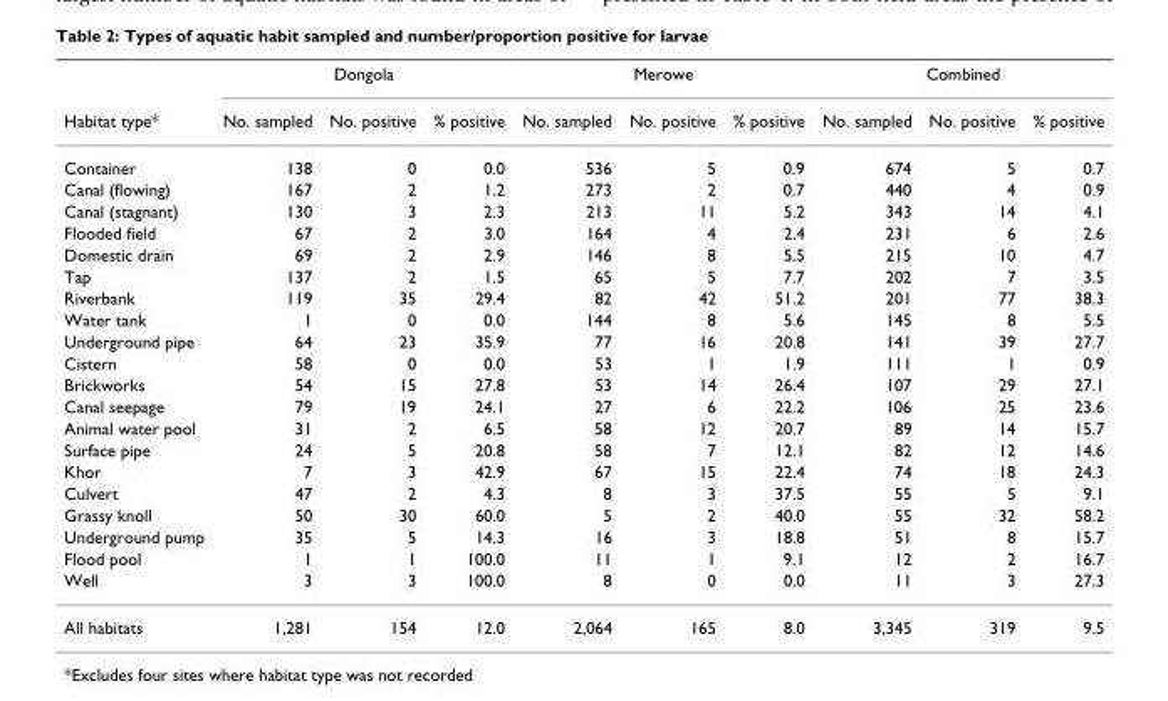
<table><thead><tr><td rowspan="2">Habitat type*</td><td colspan="3">Dongola</td><td colspan="3">Merowe</td><td colspan="3">Combined</td></tr><tr><td>No. sampled</td><td>No. positive</td><td>% positive</td><td>No. sampled</td><td>No. positive</td><td>% positive</td><td>No. sampled</td><td>No. positive</td><td>% positive</td></tr></thead><tbody><tr><td>Container</td><td>138</td><td>0</td><td>0.0</td><td>536</td><td>5</td><td>0.9</td><td>674</td><td>5</td><td>0.7</td></tr><tr><td>Canal (flowing)</td><td>167</td><td>2</td><td>1.2</td><td>273</td><td>2</td><td>0.7</td><td>440</td><td>4</td><td>0.9</td></tr><tr><td>Canal (stagnant)</td><td>130</td><td>3</td><td>2.3</td><td>213</td><td>11</td><td>5.2</td><td>343</td><td>14</td><td>4.1</td></tr><tr><td>Flooded field</td><td>67</td><td>2</td><td>3.0</td><td>164</td><td>4</td><td>2.4</td><td>231</td><td>6</td><td>2.6</td></tr><tr><td>Domestic drain</td><td>69</td><td>2</td><td>2.9</td><td>146</td><td>8</td><td>5.5</td><td>215</td><td>10</td><td>4.7</td></tr><tr><td>Tap</td><td>137</td><td>2</td><td>1.5</td><td>65</td><td>5</td><td>7.7</td><td>202</td><td>7</td><td>3.5</td></tr><tr><td>Riverbank</td><td>119</td><td>35</td><td>29.4</td><td>82</td><td>42</td><td>51.2</td><td>201</td><td>77</td><td>38.3</td></tr><tr><td>Water tank</td><td>1</td><td>0</td><td>0.0</td><td>144</td><td>8</td><td>5.6</td><td>145</td><td>8</td><td>5.5</td></tr><tr><td>Underground pipe</td><td>64</td><td>23</td><td>35.9</td><td>77</td><td>16</td><td>20.8</td><td>141</td><td>39</td><td>27.7</td></tr><tr><td>Cistern</td><td>58</td><td>0</td><td>0.0</td><td>53</td><td>1</td><td>1.9</td><td>111</td><td>1</td><td>0.9</td></tr><tr><td>Brickworks</td><td>54</td><td>15</td><td>27.8</td><td>53</td><td>14</td><td>26.4</td><td>107</td><td>29</td><td>27.1</td></tr><tr><td>Canal seepage</td><td>79</td><td>19</td><td>24.1</td><td>27</td><td>6</td><td>22.2</td><td>106</td><td>25</td><td>23.6</td></tr><tr><td>Animal water pool</td><td>31</td><td>2</td><td>6.5</td><td>58</td><td>12</td><td>20.7</td><td>89</td><td>14</td><td>15.7</td></tr><tr><td>Surface pipe</td><td>24</td><td>5</td><td>20.8</td><td>58</td><td>7</td><td>12.1</td><td>82</td><td>12</td><td>14.6</td></tr><tr><td>Khor</td><td>7</td><td>3</td><td>42.9</td><td>67</td><td>15</td><td>22.4</td><td>74</td><td>18</td><td>24.3</td></tr><tr><td>Culvert</td><td>47</td><td>2</td><td>4.3</td><td>8</td><td>3</td><td>37.5</td><td>55</td><td>5</td><td>9.1</td></tr><tr><td>Grassy knoll</td><td>50</td><td>30</td><td>60.0</td><td>5</td><td>2</td><td>40.0</td><td>55</td><td>32</td><td>58.2</td></tr><tr><td>Underground pump</td><td>35</td><td>5</td><td>14.3</td><td>16</td><td>3</td><td>18.8</td><td>51</td><td>8</td><td>15.7</td></tr><tr><td>Flood pool</td><td>1</td><td>1</td><td>100.0</td><td>11</td><td>1</td><td>9.1</td><td>12</td><td>2</td><td>16.7</td></tr><tr><td>Well</td><td>3</td><td>3</td><td>100.0</td><td>8</td><td>0</td><td>0.0</td><td>11</td><td>3</td><td>27.3</td></tr><tr><td>All habitats</td><td>1,281</td><td>154</td><td>12.0</td><td>2,064</td><td>165</td><td>8.0</td><td>3,345</td><td>319</td><td>9.5</td></tr></tbody></table>